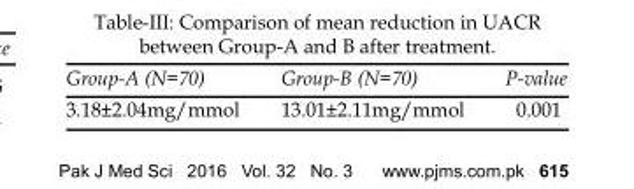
<table><thead><tr><td>Group-A (N=70)</td><td>Group-B (N=70)</td><td>P-value</td></tr></thead><tbody><tr><td>3.18±2.04mg/mmol</td><td>13.01±2.11mg/mmol</td><td>0.001</td></tr></tbody></table>